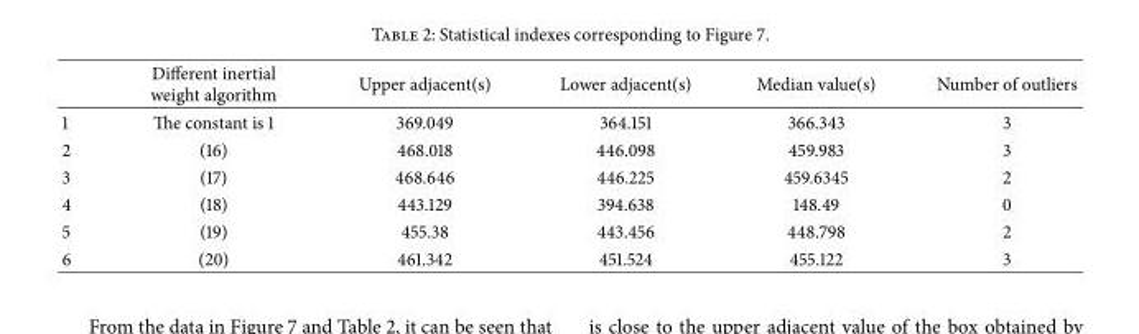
<table><thead><tr><td></td><td>Different inertial weight algorithm</td><td>Upper adjacent(s)</td><td>Lower adjacent(s)</td><td>Median value(s)</td><td>Number of outliers</td></tr></thead><tbody><tr><td>1</td><td>The constant is 1</td><td>369.049</td><td>364.151</td><td>366.343</td><td>3</td></tr><tr><td>2</td><td>(16)</td><td>468.018</td><td>446.098</td><td>459.983</td><td>3</td></tr><tr><td>3</td><td>(17)</td><td>468.646</td><td>446.225</td><td>459.6345</td><td>2</td></tr><tr><td>4</td><td>(18)</td><td>443.129</td><td>394.638</td><td>148.49</td><td>0</td></tr><tr><td>5</td><td>(19)</td><td>455.38</td><td>443.456</td><td>448.798</td><td>2</td></tr><tr><td>6</td><td>(20)</td><td>461.342</td><td>451.524</td><td>455.122</td><td>3</td></tr></tbody></table>